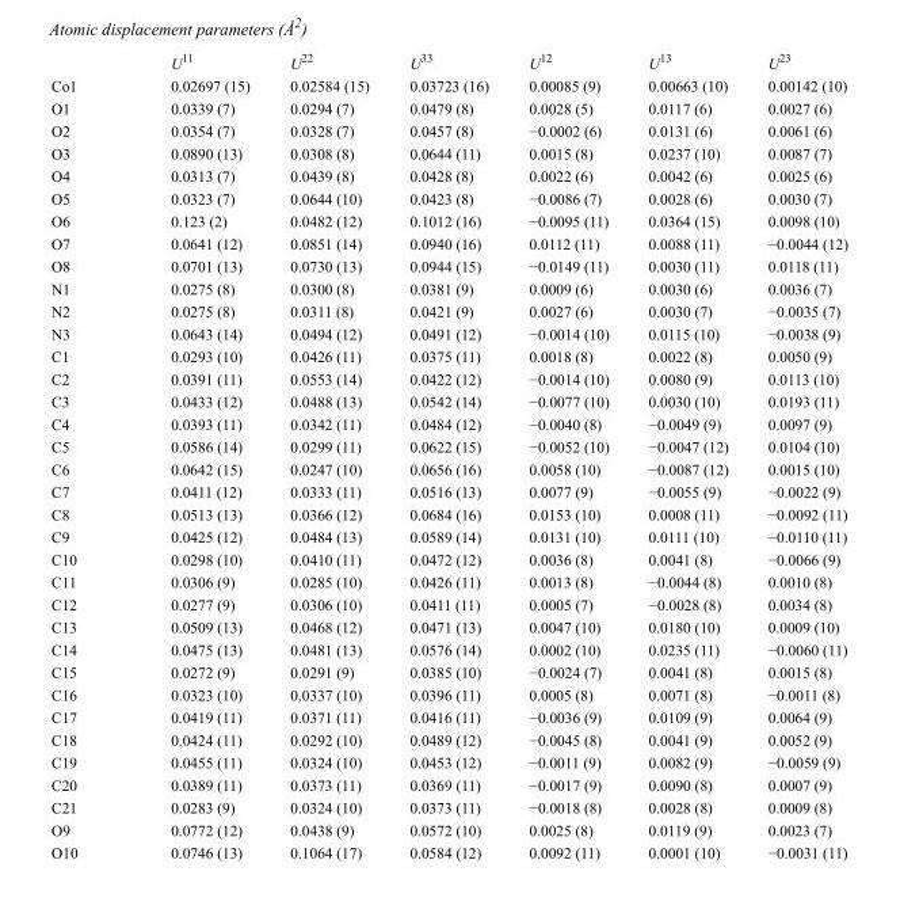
<table><thead><tr><td></td><td>U<sup>11</sup></td><td>U<sup>22</sup></td><td>U<sup>33</sup></td><td>U<sup>12</sup></td><td>U<sup>13</sup></td><td>U<sup>23</sup></td></tr></thead><tbody><tr><td>Co1</td><td>0.02697 (15)</td><td>0.02584 (15)</td><td>0.03723 (16)</td><td>0.00085 (9)</td><td>0.00663 (10)</td><td>0.00142 (10)</td></tr><tr><td>O1</td><td>0.0339 (7)</td><td>0.0294 (7)</td><td>0.0479 (8)</td><td>0.0028 (5)</td><td>0.0117 (6)</td><td>0.0027 (6)</td></tr><tr><td>O2</td><td>0.0354 (7)</td><td>0.0328 (7)</td><td>0.0457 (8)</td><td>−0.0002 (6)</td><td>0.0131 (6)</td><td>0.0061 (6)</td></tr><tr><td>O3</td><td>0.0890 (13)</td><td>0.0308 (8)</td><td>0.0644 (11)</td><td>0.0015 (8)</td><td>0.0237 (10)</td><td>0.0087 (7)</td></tr><tr><td>O4</td><td>0.0313 (7)</td><td>0.0439 (8)</td><td>0.0428 (8)</td><td>0.0022 (6)</td><td>0.0042 (6)</td><td>0.0025 (6)</td></tr><tr><td>O5</td><td>0.0323 (7)</td><td>0.0644 (10)</td><td>0.0423 (8)</td><td>−0.0086 (7)</td><td>0.0028 (6)</td><td>0.0030 (7)</td></tr><tr><td>O6</td><td>0.123 (2)</td><td>0.0482 (12)</td><td>0.1012 (16)</td><td>−0.0095 (11)</td><td>0.0364 (15)</td><td>0.0098 (10)</td></tr><tr><td>O7</td><td>0.0641 (12)</td><td>0.0851 (14)</td><td>0.0940 (16)</td><td>0.0112 (11)</td><td>0.0088 (11)</td><td>−0.0044 (12)</td></tr><tr><td>O8</td><td>0.0701 (13)</td><td>0.0730 (13)</td><td>0.0944 (15)</td><td>−0.0149 (11)</td><td>0.0030 (11)</td><td>0.0118 (11)</td></tr><tr><td>N1</td><td>0.0275 (8)</td><td>0.0300 (8)</td><td>0.0381 (9)</td><td>0.0009 (6)</td><td>0.0030 (6)</td><td>0.0036 (7)</td></tr><tr><td>N2</td><td>0.0275 (8)</td><td>0.0311 (8)</td><td>0.0421 (9)</td><td>0.0027 (6)</td><td>0.0030 (7)</td><td>−0.0035 (7)</td></tr><tr><td>N3</td><td>0.0643 (14)</td><td>0.0494 (12)</td><td>0.0491 (12)</td><td>−0.0014 (10)</td><td>0.0115 (10)</td><td>−0.0038 (9)</td></tr><tr><td>C1</td><td>0.0293 (10)</td><td>0.0426 (11)</td><td>0.0375 (11)</td><td>0.0018 (8)</td><td>0.0022 (8)</td><td>0.0050 (9)</td></tr><tr><td>C2</td><td>0.0391 (11)</td><td>0.0553 (14)</td><td>0.0422 (12)</td><td>−0.0014 (10)</td><td>0.0080 (9)</td><td>0.0113 (10)</td></tr><tr><td>C3</td><td>0.0433 (12)</td><td>0.0488 (13)</td><td>0.0542 (14)</td><td>−0.0077 (10)</td><td>0.0030 (10)</td><td>0.0193 (11)</td></tr><tr><td>C4</td><td>0.0393 (11)</td><td>0.0342 (11)</td><td>0.0484 (12)</td><td>−0.0040 (8)</td><td>−0.0049 (9)</td><td>0.0097 (9)</td></tr><tr><td>C5</td><td>0.0586 (14)</td><td>0.0299 (11)</td><td>0.0622 (15)</td><td>−0.0052 (10)</td><td>−0.0047 (12)</td><td>0.0104 (10)</td></tr><tr><td>C6</td><td>0.0642 (15)</td><td>0.0247 (10)</td><td>0.0656 (16)</td><td>0.0058 (10)</td><td>−0.0087 (12)</td><td>0.0015 (10)</td></tr><tr><td>C7</td><td>0.0411 (12)</td><td>0.0333 (11)</td><td>0.0516 (13)</td><td>0.0077 (9)</td><td>−0.0055 (9)</td><td>−0.0022 (9)</td></tr><tr><td>C8</td><td>0.0513 (13)</td><td>0.0366 (12)</td><td>0.0684 (16)</td><td>0.0153 (10)</td><td>0.0008 (11)</td><td>−0.0092 (11)</td></tr><tr><td>C9</td><td>0.0425 (12)</td><td>0.0484 (13)</td><td>0.0589 (14)</td><td>0.0131 (10)</td><td>0.0111 (10)</td><td>−0.0110 (11)</td></tr><tr><td>C10</td><td>0.0298 (10)</td><td>0.0410 (11)</td><td>0.0472 (12)</td><td>0.0036 (8)</td><td>0.0041 (8)</td><td>−0.0066 (9)</td></tr><tr><td>C11</td><td>0.0306 (9)</td><td>0.0285 (10)</td><td>0.0426 (11)</td><td>0.0013 (8)</td><td>−0.0044 (8)</td><td>0.0010 (8)</td></tr><tr><td>C12</td><td>0.0277 (9)</td><td>0.0306 (10)</td><td>0.0411 (11)</td><td>0.0005 (7)</td><td>−0.0028 (8)</td><td>0.0034 (8)</td></tr><tr><td>C13</td><td>0.0509 (13)</td><td>0.0468 (12)</td><td>0.0471 (13)</td><td>0.0047 (10)</td><td>0.0180 (10)</td><td>0.0009 (10)</td></tr><tr><td>C14</td><td>0.0475 (13)</td><td>0.0481 (13)</td><td>0.0576 (14)</td><td>0.0002 (10)</td><td>0.0235 (11)</td><td>−0.0060 (11)</td></tr><tr><td>C15</td><td>0.0272 (9)</td><td>0.0291 (9)</td><td>0.0385 (10)</td><td>−0.0024 (7)</td><td>0.0041 (8)</td><td>0.0015 (8)</td></tr><tr><td>C16</td><td>0.0323 (10)</td><td>0.0337 (10)</td><td>0.0396 (11)</td><td>0.0005 (8)</td><td>0.0071 (8)</td><td>−0.0011 (8)</td></tr><tr><td>C17</td><td>0.0419 (11)</td><td>0.0371 (11)</td><td>0.0416 (11)</td><td>−0.0036 (9)</td><td>0.0109 (9)</td><td>0.0064 (9)</td></tr><tr><td>C18</td><td>0.0424 (11)</td><td>0.0292 (10)</td><td>0.0489 (12)</td><td>−0.0045 (8)</td><td>0.0041 (9)</td><td>0.0052 (9)</td></tr><tr><td>C19</td><td>0.0455 (11)</td><td>0.0324 (10)</td><td>0.0453 (12)</td><td>−0.0011 (9)</td><td>0.0082 (9)</td><td>−0.0059 (9)</td></tr><tr><td>C20</td><td>0.0389 (11)</td><td>0.0373 (11)</td><td>0.0369 (11)</td><td>−0.0017 (9)</td><td>0.0090 (8)</td><td>0.0007 (9)</td></tr><tr><td>C21</td><td>0.0283 (9)</td><td>0.0324 (10)</td><td>0.0373 (11)</td><td>−0.0018 (8)</td><td>0.0028 (8)</td><td>0.0009 (8)</td></tr><tr><td>O9</td><td>0.0772 (12)</td><td>0.0438 (9)</td><td>0.0572 (10)</td><td>0.0025 (8)</td><td>0.0119 (9)</td><td>0.0023 (7)</td></tr><tr><td>O10</td><td>0.0746 (13)</td><td>0.1064 (17)</td><td>0.0584 (12)</td><td>0.0092 (11)</td><td>0.0001 (10)</td><td>−0.0031 (11)</td></tr></tbody></table>